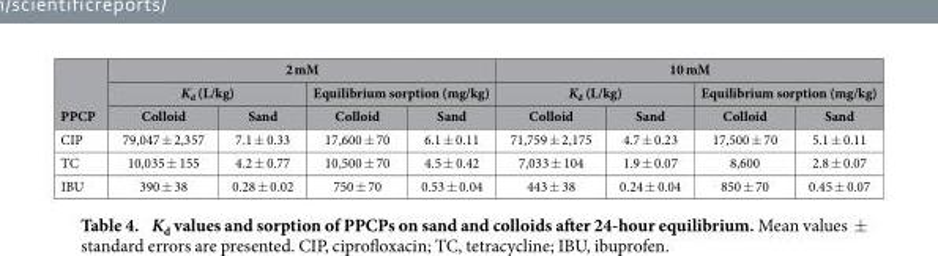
<table><thead><tr><td rowspan="3">PPCP</td><td colspan="4">2 mM</td><td colspan="4">10 mM</td></tr><tr><td colspan="2">K<sub>d</sub> (L/kg)</td><td colspan="2">Equilibrium sorption (mg/kg)</td><td colspan="2">K<sub>d</sub> (L/kg)</td><td colspan="2">Equilibrium sorption (mg/kg)</td></tr><tr><td>Colloid</td><td>Sand</td><td>Colloid</td><td>Sand</td><td>Colloid</td><td>Sand</td><td>Colloid</td><td>Sand</td></tr></thead><tbody><tr><td>CIP</td><td>79,047 ± 2,357</td><td>7.1 ± 0.33</td><td>17,600 ± 70</td><td>6.1 ± 0.11</td><td>71,759 ± 2,175</td><td>4.7 ± 0.23</td><td>17,500 ± 70</td><td>5.1 ± 0.11</td></tr><tr><td>TC</td><td>10,035 ± 155</td><td>4.2 ± 0.77</td><td>10,500 ± 70</td><td>4.5 ± 0.42</td><td>7,033 ± 104</td><td>1.9 ± 0.07</td><td>8,600</td><td>2.8 ± 0.07</td></tr><tr><td>IBU</td><td>390 ± 38</td><td>0.28 ± 0.02</td><td>750 ± 70</td><td>0.53 ± 0.04</td><td>443 ± 38</td><td>0.24 ± 0.04</td><td>850 ± 70</td><td>0.45 ± 0.07</td></tr></tbody></table>